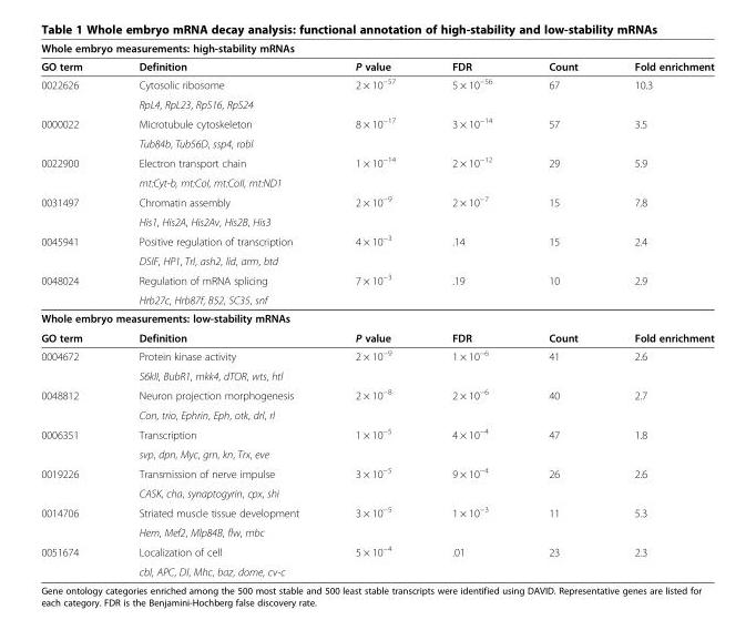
<table><thead><tr><td colspan="6">Whole embryo measurements: high-stability mRNAs</td></tr><tr><td>GO term</td><td>Definition</td><td>P value</td><td>FDR</td><td>Count</td><td>Fold enrichment</td></tr></thead><tbody><tr><td rowspan="2">0022626</td><td>Cytosolic ribosome</td><td>2 × 10<sup>−57</sup></td><td>5 × 10<sup>−56</sup></td><td>67</td><td>10.3</td></tr><tr><td>RpL4, RpL23, RpS16, RpS24</td><td></td><td></td><td></td><td></td></tr><tr><td rowspan="2">0000022</td><td>Microtubule cytoskeleton</td><td>8 × 10<sup>−17</sup></td><td>3 × 10<sup>−14</sup></td><td>57</td><td>3.5</td></tr><tr><td>Tub84b, Tub56D, ssp4, robl</td><td></td><td></td><td></td><td></td></tr><tr><td rowspan="2">0022900</td><td>Electron transport chain</td><td>1 × 10<sup>−14</sup></td><td>2 × 10<sup>−12</sup></td><td>29</td><td>5.9</td></tr><tr><td>mt:Cyt-b, mt:CoI, mt:CoII, mt:ND1</td><td></td><td></td><td></td><td></td></tr><tr><td rowspan="2">0031497</td><td>Chromatin assembly</td><td>2 × 10<sup>−9</sup></td><td>2 × 10<sup>−7</sup></td><td>15</td><td>7.8</td></tr><tr><td>His1, His2A, His2Av, His2B, His3</td><td></td><td></td><td></td><td></td></tr><tr><td rowspan="2">0045941</td><td>Positive regulation of transcription</td><td>4 × 10<sup>−3</sup></td><td>.14</td><td>15</td><td>2.4</td></tr><tr><td>DSIF, HP1, Trl, ash2, lid, arm, btd</td><td></td><td></td><td></td><td></td></tr><tr><td rowspan="2">0048024</td><td>Regulation of mRNA splicing</td><td>7 × 10<sup>−3</sup></td><td>.19</td><td>10</td><td>2.9</td></tr><tr><td>Hrb27c, Hrb87f, B52, SC35, snf</td><td></td><td></td><td></td><td></td></tr><tr><td colspan="6">Whole embryo measurements: low-stability mRNAs</td></tr><tr><td>GO term</td><td>Definition</td><td>P value</td><td>FDR</td><td>Count</td><td>Fold enrichment</td></tr><tr><td rowspan="2">0004672</td><td>Protein kinase activity</td><td>2 × 10<sup>−9</sup></td><td>1 × 10<sup>−6</sup></td><td>41</td><td>2.6</td></tr><tr><td>S6kII, BubR1, mkk4, dTOR, wts, htl</td><td></td><td></td><td></td><td></td></tr><tr><td rowspan="2">0048812</td><td>Neuron projection morphogenesis</td><td>2 × 10<sup>−8</sup></td><td>2 × 10<sup>−6</sup></td><td>40</td><td>2.7</td></tr><tr><td>Con, trio, Ephrin, Eph, otk, drl, rl</td><td></td><td></td><td></td><td></td></tr><tr><td rowspan="2">0006351</td><td>Transcription</td><td>1 × 10<sup>−5</sup></td><td>4 × 10<sup>−4</sup></td><td>47</td><td>1.8</td></tr><tr><td>svp, dpn, Myc, grn, kn, Trx, eve</td><td></td><td></td><td></td><td></td></tr><tr><td rowspan="2">0019226</td><td>Transmission of nerve impulse</td><td>3 × 10<sup>−5</sup></td><td>9 × 10<sup>−4</sup></td><td>26</td><td>2.6</td></tr><tr><td>CASK, cha, synaptogyrin, cpx, shi</td><td></td><td></td><td></td><td></td></tr><tr><td rowspan="2">0014706</td><td>Striated muscle tissue development</td><td>3 × 10<sup>−5</sup></td><td>1 × 10<sup>−3</sup></td><td>11</td><td>5.3</td></tr><tr><td>Hem, Mef2, Mlp84B, flw, mbc</td><td></td><td></td><td></td><td></td></tr><tr><td rowspan="2">0051674</td><td>Localization of cell</td><td>5 × 10<sup>−4</sup></td><td>.01</td><td>23</td><td>2.3</td></tr><tr><td>cbl, APC, Dl, Mhc, baz, dome, cv-c</td><td></td><td></td><td></td><td></td></tr></tbody></table>